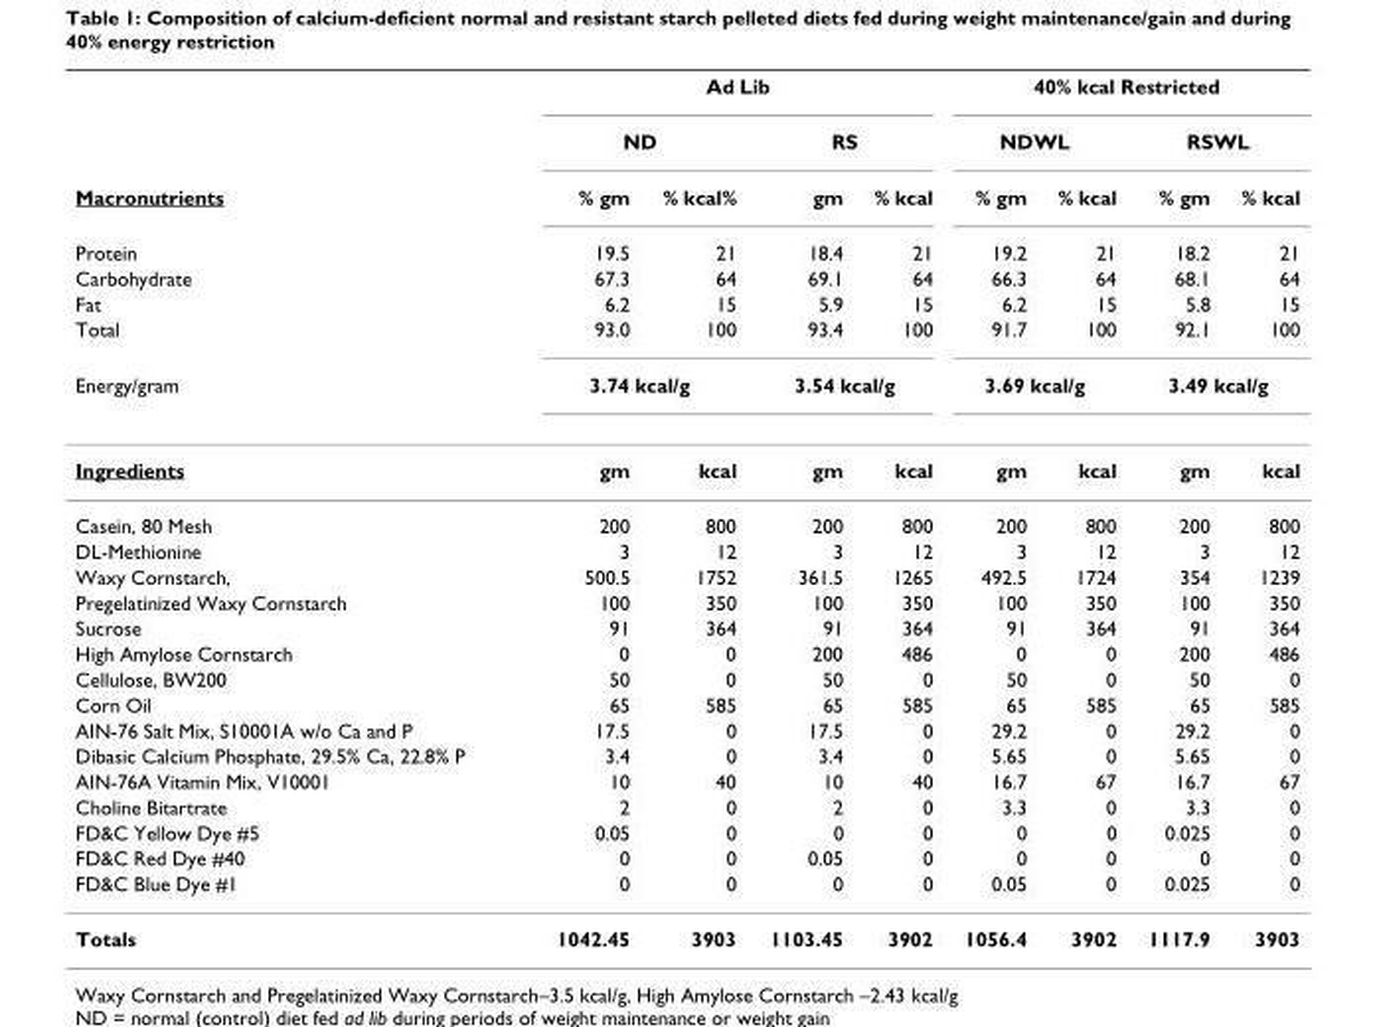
<table><thead><tr><td rowspan="8">Macronutrients Protein Carbohydrate Fat Total Energy/gram</td><td colspan="4">Ad Lib</td><td colspan="4">40% kcal Restricted</td></tr><tr><td colspan="2">ND</td><td colspan="2">RS</td><td colspan="2">NDWL</td><td colspan="2">RSWL</td></tr><tr><td rowspan="5">% gm 19.5 67.3 6.2 93.0</td><td rowspan="5">% kcal% 21 64 15 100</td><td rowspan="5">gm 18.4 69.1 5.9 93.4</td><td rowspan="5">% kcal 21 64 15 100</td><td rowspan="5">% gm 19.2 66.3 6.2 91.7</td><td rowspan="5">% kcal 21 64 15 100</td><td rowspan="5">% gm 18.2 68.1 5.8 92.1</td><td rowspan="5">% kcal 21 64 15 100</td></tr><tr></tr><tr></tr><tr></tr><tr></tr><tr><td colspan="2">3.74 kcal/g</td><td colspan="2">3.54 kcal/g</td><td colspan="2">3.69 kcal/g</td><td colspan="2">3.49 kcal/g</td></tr></thead><tbody><tr><td>Ingredients</td><td>gm</td><td>kcal</td><td>gm</td><td>kcal</td><td>gm</td><td>kcal</td><td>gm</td><td>kcal</td></tr><tr><td>Casein, 80 Mesh</td><td>200</td><td>800</td><td>200</td><td>800</td><td>200</td><td>800</td><td>200</td><td>800</td></tr><tr><td>DL-Methionine</td><td>3</td><td>12</td><td>3</td><td>12</td><td>3</td><td>12</td><td>3</td><td>12</td></tr><tr><td>Waxy Cornstarch,</td><td>500.5</td><td>1752</td><td>361.5</td><td>1265</td><td>492.5</td><td>1724</td><td>354</td><td>1239</td></tr><tr><td>Pregelatinized Waxy Cornstarch</td><td>100</td><td>350</td><td>100</td><td>350</td><td>100</td><td>350</td><td>100</td><td>350</td></tr><tr><td>Sucrose</td><td>91</td><td>364</td><td>91</td><td>364</td><td>91</td><td>364</td><td>91</td><td>364</td></tr><tr><td>High Amylose Cornstarch</td><td>0</td><td>0</td><td>200</td><td>486</td><td>0</td><td>0</td><td>200</td><td>486</td></tr><tr><td>Cellulose, BW200</td><td>50</td><td>0</td><td>50</td><td>0</td><td>50</td><td>0</td><td>50</td><td>0</td></tr><tr><td>Corn Oil</td><td>65</td><td>585</td><td>65</td><td>585</td><td>65</td><td>585</td><td>65</td><td>585</td></tr><tr><td>AIN-76 Salt Mix, S10001A w/o Ca and P</td><td>17.5</td><td>0</td><td>17.5</td><td>0</td><td>29.2</td><td>0</td><td>29.2</td><td>0</td></tr><tr><td>Dibasic Calcium Phosphate, 29.5% Ca, 22.8% P</td><td>3.4</td><td>0</td><td>3.4</td><td>0</td><td>5.65</td><td>0</td><td>5.65</td><td>0</td></tr><tr><td>AIN-76A Vitamin Mix, V10001</td><td>10</td><td>40</td><td>10</td><td>40</td><td>16.7</td><td>67</td><td>16.7</td><td>67</td></tr><tr><td>Choline Bitartrate</td><td>2</td><td>0</td><td>2</td><td>0</td><td>3.3</td><td>0</td><td>3.3</td><td>0</td></tr><tr><td>FD&amp;C Yellow Dye #5</td><td>0.05</td><td>0</td><td>0</td><td>0</td><td>0</td><td>0</td><td>0.025</td><td>0</td></tr><tr><td>FD&amp;C Red Dye #40</td><td>0</td><td>0</td><td>0.05</td><td>0</td><td>0</td><td>0</td><td>0</td><td>0</td></tr><tr><td>FD&amp;C Blue Dye #1</td><td>0</td><td>0</td><td>0</td><td>0</td><td>0.05</td><td>0</td><td>0.025</td><td>0</td></tr><tr><td>Totals</td><td>1042.45</td><td>3903</td><td>1103.45</td><td>3902</td><td>1056.4</td><td>3902</td><td>1117.9</td><td>3903</td></tr></tbody></table>